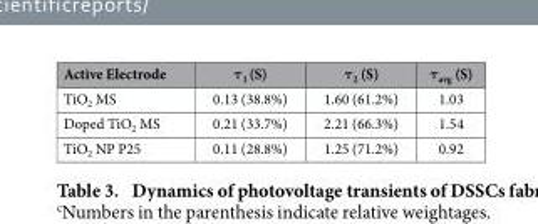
<table><thead><tr><td>Active Electrode</td><td>τ<sub>1</sub> (S)</td><td>τ<sub>2</sub> (S)</td><td>τ<sub>avg</sub> (S)</td></tr></thead><tbody><tr><td>TiO<sub>2</sub> MS</td><td>0.13 (38.8%)</td><td>1.60 (61.2%)</td><td>1.03</td></tr><tr><td>Doped TiO<sub>2</sub> MS</td><td>0.21 (33.7%)</td><td>2.21 (66.3%)</td><td>1.54</td></tr><tr><td>TiO<sub>2</sub> NP P25</td><td>0.11 (28.8%)</td><td>1.25 (71.2%)</td><td>0.92</td></tr></tbody></table>